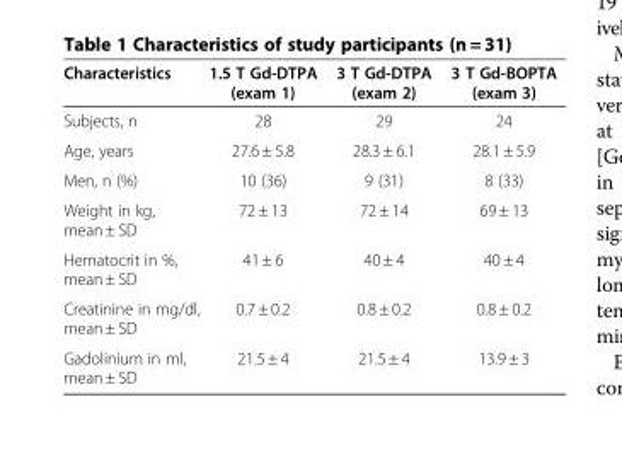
<table><thead><tr><td>Characteristics</td><td>1.5 T Gd-DTPA (exam 1)</td><td>3 T Gd-DTPA (exam 2)</td><td>3 T Gd-BOPTA (exam 3)</td></tr></thead><tbody><tr><td>Subjects, n</td><td>28</td><td>29</td><td>24</td></tr><tr><td>Age, years</td><td>27.6 ± 5.8</td><td>28.3 ± 6.1</td><td>28.1 ± 5.9</td></tr><tr><td>Men, n (%)</td><td>10 (36)</td><td>9 (31)</td><td>8 (33)</td></tr><tr><td>Weight in kg, mean ± SD</td><td>72 ± 13</td><td>72 ± 14</td><td>69 ± 13</td></tr><tr><td>Hematocrit in %, mean ± SD</td><td>41 ± 6</td><td>40 ± 4</td><td>40 ± 4</td></tr><tr><td>Creatinine in mg/dl, mean ± SD</td><td>0.7 ± 0.2</td><td>0.8 ± 0.2</td><td>0.8 ± 0.2</td></tr><tr><td>Gadolinium in ml, mean ± SD</td><td>21.5 ± 4</td><td>21.5 ± 4</td><td>13.9 ± 3</td></tr></tbody></table>